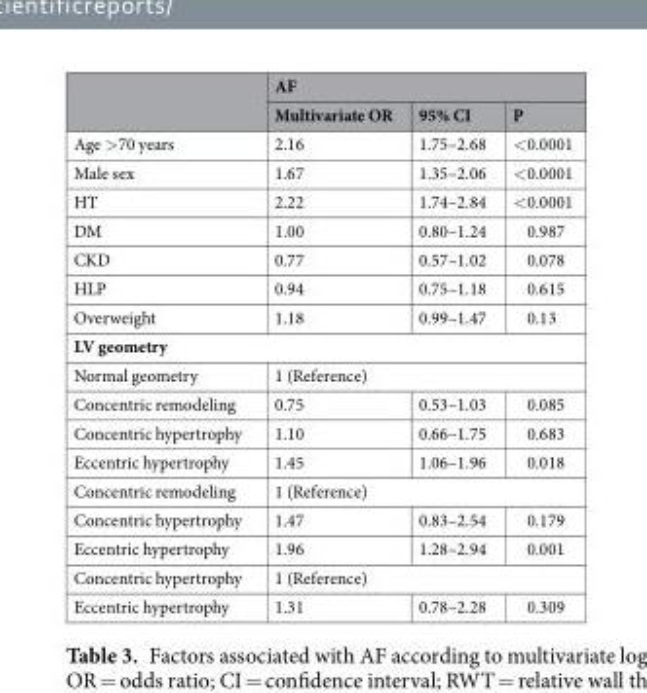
<table><thead><tr><td rowspan="2"></td><td colspan="3">AF</td></tr><tr><td>Multivariate OR</td><td>95% CI</td><td>P</td></tr></thead><tbody><tr><td>Age &gt;70 years</td><td>2.16</td><td>1.75–2.68</td><td>&lt;0.0001</td></tr><tr><td>Male sex</td><td>1.67</td><td>1.35–2.06</td><td>&lt;0.0001</td></tr><tr><td>HT</td><td>2.22</td><td>1.74–2.84</td><td>&lt;0.0001</td></tr><tr><td>DM</td><td>1.00</td><td>0.80–1.24</td><td>0.987</td></tr><tr><td>CKD</td><td>0.77</td><td>0.57–1.02</td><td>0.078</td></tr><tr><td>HLP</td><td>0.94</td><td>0.75–1.18</td><td>0.615</td></tr><tr><td>Overweight</td><td>1.18</td><td>0.99–1.47</td><td>0.13</td></tr><tr><td colspan="4">LV geometry</td></tr><tr><td>Normal geometry</td><td colspan="3">1 (Reference)</td></tr><tr><td>Concentric remodeling</td><td>0.75</td><td>0.53–1.03</td><td>0.085</td></tr><tr><td>Concentric hypertrophy</td><td>1.10</td><td>0.66–1.75</td><td>0.683</td></tr><tr><td>Eccentric hypertrophy</td><td>1.45</td><td>1.06–1.96</td><td>0.018</td></tr><tr><td>Concentric remodeling</td><td colspan="3">1 (Reference)</td></tr><tr><td>Concentric hypertrophy</td><td>1.47</td><td>0.83–2.54</td><td>0.179</td></tr><tr><td>Eccentric hypertrophy</td><td>1.96</td><td>1.28–2.94</td><td>0.001</td></tr><tr><td>Concentric hypertrophy</td><td colspan="3">1 (Reference)</td></tr><tr><td>Eccentric hypertrophy</td><td>1.31</td><td>0.78–2.28</td><td>0.309</td></tr></tbody></table>